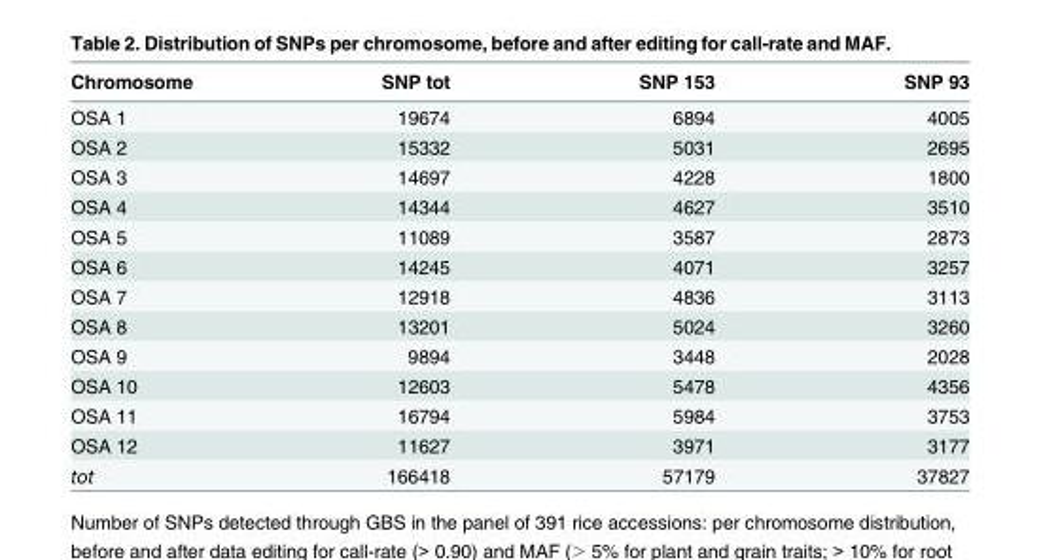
<table><thead><tr><td>Chromosome</td><td>SNP tot</td><td>SNP 153</td><td>SNP 93</td></tr></thead><tbody><tr><td>OSA 1</td><td>19674</td><td>6894</td><td>4005</td></tr><tr><td>OSA 2</td><td>15332</td><td>5031</td><td>2695</td></tr><tr><td>OSA 3</td><td>14697</td><td>4228</td><td>1800</td></tr><tr><td>OSA 4</td><td>14344</td><td>4627</td><td>3510</td></tr><tr><td>OSA 5</td><td>11089</td><td>3587</td><td>2873</td></tr><tr><td>OSA 6</td><td>14245</td><td>4071</td><td>3257</td></tr><tr><td>OSA 7</td><td>12918</td><td>4836</td><td>3113</td></tr><tr><td>OSA 8</td><td>13201</td><td>5024</td><td>3260</td></tr><tr><td>OSA 9</td><td>9894</td><td>3448</td><td>2028</td></tr><tr><td>OSA 10</td><td>12603</td><td>5478</td><td>4356</td></tr><tr><td>OSA 11</td><td>16794</td><td>5984</td><td>3753</td></tr><tr><td>OSA 12</td><td>11627</td><td>3971</td><td>3177</td></tr><tr><td>tot</td><td>166418</td><td>57179</td><td>37827</td></tr></tbody></table>